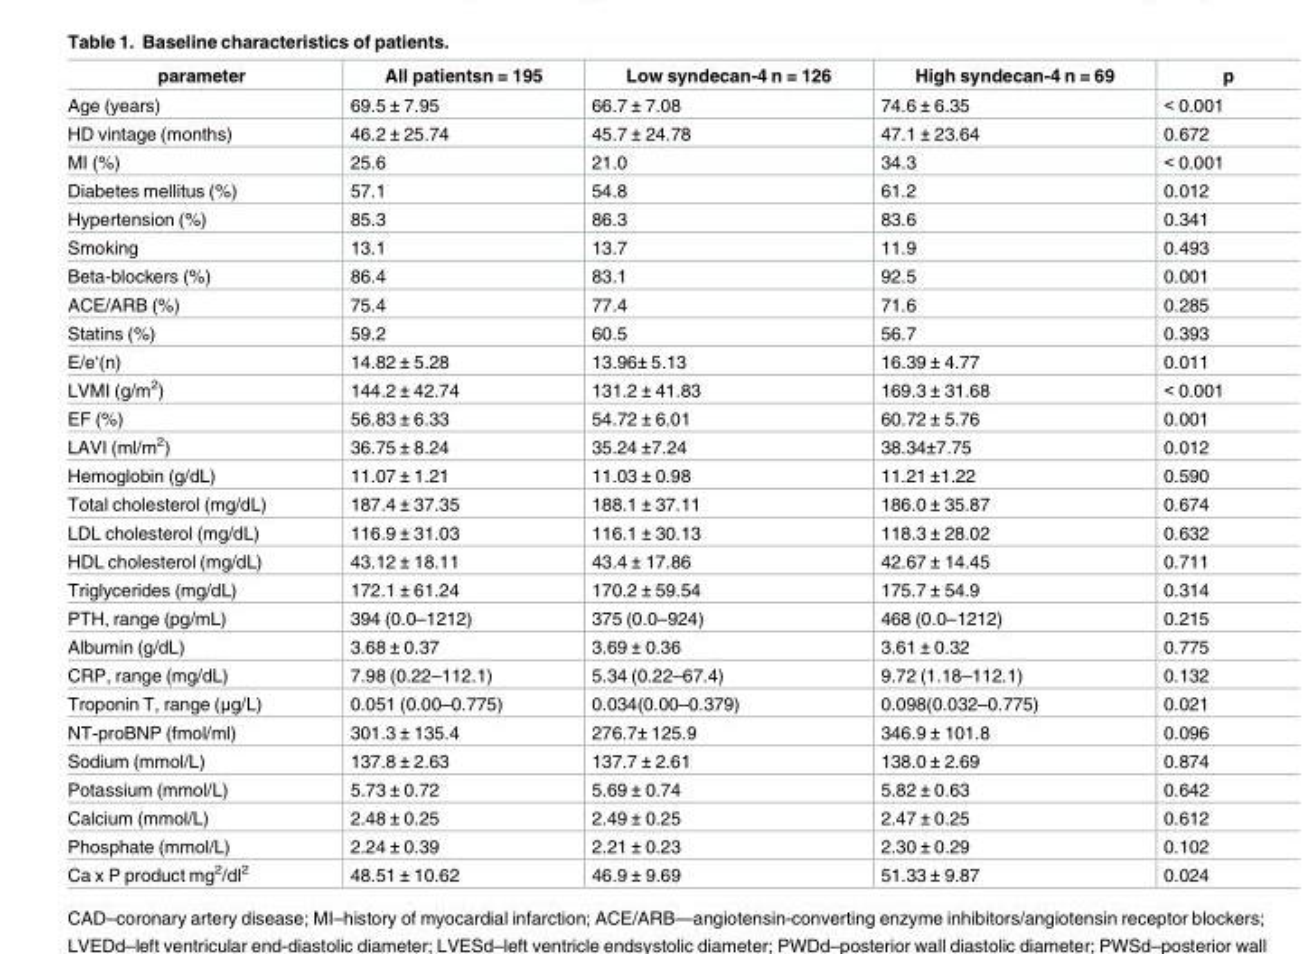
<table><thead><tr><td>parameter</td><td>All patientsn = 195</td><td>Low syndecan-4 n = 126</td><td>High syndecan-4 n = 69</td><td>p</td></tr></thead><tbody><tr><td>Age (years)</td><td>69.5 ± 7.95</td><td>66.7 ± 7.08</td><td>74.6 ± 6.35</td><td>&lt; 0.001</td></tr><tr><td>HD vintage (months)</td><td>46.2 ± 25.74</td><td>45.7 ± 24.78</td><td>47.1 ± 23.64</td><td>0.672</td></tr><tr><td>MI (%)</td><td>25.6</td><td>21.0</td><td>34.3</td><td>&lt; 0.001</td></tr><tr><td>Diabetes mellitus (%)</td><td>57.1</td><td>54.8</td><td>61.2</td><td>0.012</td></tr><tr><td>Hypertension (%)</td><td>85.3</td><td>86.3</td><td>83.6</td><td>0.341</td></tr><tr><td>Smoking</td><td>13.1</td><td>13.7</td><td>11.9</td><td>0.493</td></tr><tr><td>Beta-blockers (%)</td><td>86.4</td><td>83.1</td><td>92.5</td><td>0.001</td></tr><tr><td>ACE/ARB (%)</td><td>75.4</td><td>77.4</td><td>71.6</td><td>0.285</td></tr><tr><td>Statins (%)</td><td>59.2</td><td>60.5</td><td>56.7</td><td>0.393</td></tr><tr><td>E/e‘(n)</td><td>14.82 ± 5.28</td><td>13.96± 5.13</td><td>16.39 ± 4.77</td><td>0.011</td></tr><tr><td>LVMI (g/m<sup>2</sup>)</td><td>144.2 ± 42.74</td><td>131.2 ± 41.83</td><td>169.3 ± 31.68</td><td>&lt; 0.001</td></tr><tr><td>EF (%)</td><td>56.83 ± 6.33</td><td>54.72 ± 6.01</td><td>60.72 ± 5.76</td><td>0.001</td></tr><tr><td>LAVI (ml/m<sup>2</sup>)</td><td>36.75 ± 8.24</td><td>35.24 ±7.24</td><td>38.34±7.75</td><td>0.012</td></tr><tr><td>Hemoglobin (g/dL)</td><td>11.07 ± 1.21</td><td>11.03 ± 0.98</td><td>11.21 ±1.22</td><td>0.590</td></tr><tr><td>Total cholesterol (mg/dL)</td><td>187.4 ± 37.35</td><td>188.1 ± 37.11</td><td>186.0 ± 35.87</td><td>0.674</td></tr><tr><td>LDL cholesterol (mg/dL)</td><td>116.9 ± 31.03</td><td>116.1 ± 30.13</td><td>118.3 ± 28.02</td><td>0.632</td></tr><tr><td>HDL cholesterol (mg/dL)</td><td>43.12 ± 18.11</td><td>43.4 ± 17.86</td><td>42.67 ± 14.45</td><td>0.711</td></tr><tr><td>Triglycerides (mg/dL)</td><td>172.1 ± 61.24</td><td>170.2 ± 59.54</td><td>175.7 ± 54.9</td><td>0.314</td></tr><tr><td>PTH, range (pg/mL)</td><td>394 (0.0–1212)</td><td>375 (0.0–924)</td><td>468 (0.0–1212)</td><td>0.215</td></tr><tr><td>Albumin (g/dL)</td><td>3.68 ± 0.37</td><td>3.69 ± 0.36</td><td>3.61 ± 0.32</td><td>0.775</td></tr><tr><td>CRP, range (mg/dL)</td><td>7.98 (0.22–112.1)</td><td>5.34 (0.22–67.4)</td><td>9.72 (1.18–112.1)</td><td>0.132</td></tr><tr><td>Troponin T, range (μg/L)</td><td>0.051 (0.00–0.775)</td><td>0.034(0.00–0.379)</td><td>0.098(0.032–0.775)</td><td>0.021</td></tr><tr><td>NT-proBNP (fmol/ml)</td><td>301.3 ± 135.4</td><td>276.7± 125.9</td><td>346.9 ± 101.8</td><td>0.096</td></tr><tr><td>Sodium (mmol/L)</td><td>137.8 ± 2.63</td><td>137.7 ± 2.61</td><td>138.0 ± 2.69</td><td>0.874</td></tr><tr><td>Potassium (mmol/L)</td><td>5.73 ± 0.72</td><td>5.69 ± 0.74</td><td>5.82 ± 0.63</td><td>0.642</td></tr><tr><td>Calcium (mmol/L)</td><td>2.48 ± 0.25</td><td>2.49 ± 0.25</td><td>2.47 ± 0.25</td><td>0.612</td></tr><tr><td>Phosphate (mmol/L)</td><td>2.24 ± 0.39</td><td>2.21 ± 0.23</td><td>2.30 ± 0.29</td><td>0.102</td></tr><tr><td>Ca x P product mg<sup>2</sup>/dl<sup>2</sup></td><td>48.51 ± 10.62</td><td>46.9 ± 9.69</td><td>51.33 ± 9.87</td><td>0.024</td></tr></tbody></table>